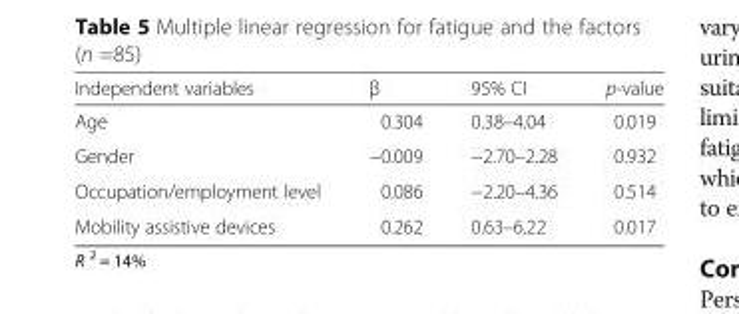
<table><thead><tr><td>Independent variables</td><td>β</td><td>95% CI</td><td>p-value</td></tr></thead><tbody><tr><td>Age</td><td>0.304</td><td>0.38–4.04</td><td>0.019</td></tr><tr><td>Gender</td><td>−0.009</td><td>−2.70–2.28</td><td>0.932</td></tr><tr><td>Occupation/employment level</td><td>0.086</td><td>−2.20–4.36</td><td>0.514</td></tr><tr><td>Mobility assistive devices</td><td>0.262</td><td>0.63–6.22</td><td>0.017</td></tr></tbody></table>